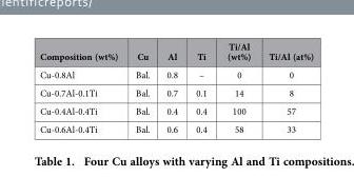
<table><thead><tr><td>Composition (wt%)</td><td>Cu</td><td>Al</td><td>Ti</td><td>Ti/Al (wt%)</td><td>Ti/Al (at%)</td></tr></thead><tbody><tr><td>Cu-0.8Al</td><td>Bal.</td><td>0.8</td><td>–</td><td>0</td><td>0</td></tr><tr><td>Cu-0.7Al-0.1Ti</td><td>Bal.</td><td>0.7</td><td>0.1</td><td>14</td><td>8</td></tr><tr><td>Cu-0.4Al-0.4Ti</td><td>Bal.</td><td>0.4</td><td>0.4</td><td>100</td><td>57</td></tr><tr><td>Cu-0.6Al-0.4Ti</td><td>Bal.</td><td>0.6</td><td>0.4</td><td>58</td><td>33</td></tr></tbody></table>